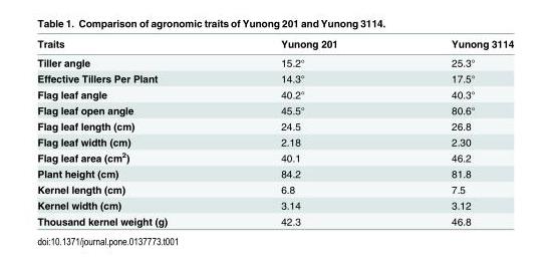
<table><thead><tr><td>Traits</td><td>Yunong 201</td><td>Yunong 3114</td></tr></thead><tbody><tr><td>Tiller angle</td><td>15.2°</td><td>25.3°</td></tr><tr><td>Effective Tillers Per Plant</td><td>14.3°</td><td>17.5°</td></tr><tr><td>Flag leaf angle</td><td>40.2°</td><td>40.3°</td></tr><tr><td>Flag leaf open angle</td><td>45.5°</td><td>80.6°</td></tr><tr><td>Flag leaf length (cm)</td><td>24.5</td><td>26.8</td></tr><tr><td>Flag leaf width (cm)</td><td>2.18</td><td>2.30</td></tr><tr><td>Flag leaf area (cm<sup>2</sup>)</td><td>40.1</td><td>46.2</td></tr><tr><td>Plant height (cm)</td><td>84.2</td><td>81.8</td></tr><tr><td>Kernel length (cm)</td><td>6.8</td><td>7.5</td></tr><tr><td>Kernel width (cm)</td><td>3.14</td><td>3.12</td></tr><tr><td>Thousand kernel weight (g)</td><td>42.3</td><td>46.8</td></tr></tbody></table>